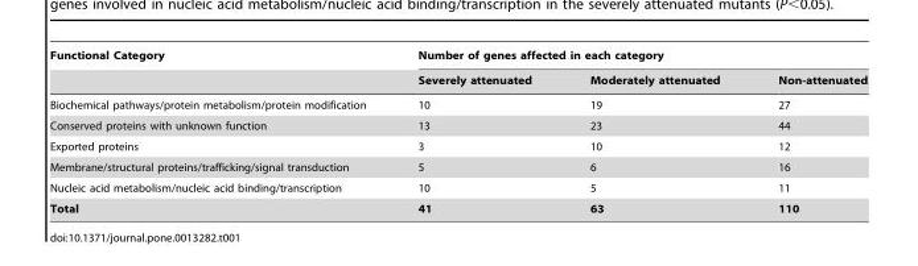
<table><thead><tr><td rowspan="2">Functional Category</td><td colspan="3">Number of genes affected in each category</td></tr><tr><td>Severely attenuated</td><td>Moderately attenuated</td><td>Non-attenuated</td></tr></thead><tbody><tr><td>Biochemical pathways/protein metabolism/protein modification</td><td>10</td><td>19</td><td>27</td></tr><tr><td>Conserved proteins with unknown function</td><td>13</td><td>23</td><td>44</td></tr><tr><td>Exported proteins</td><td>3</td><td>10</td><td>12</td></tr><tr><td>Membrane/structural proteins/trafficking/signal transduction</td><td>5</td><td>6</td><td>16</td></tr><tr><td>Nucleic acid metabolism/nucleic acid binding/transcription</td><td>10</td><td>5</td><td>11</td></tr><tr><td>Total</td><td>41</td><td>63</td><td>110</td></tr></tbody></table>